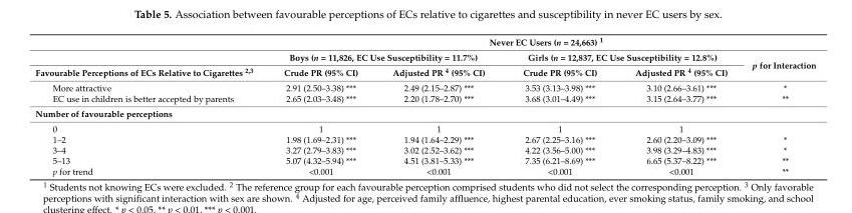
<table><thead><tr><td rowspan="3">Favourable Perceptions of ECs Relative to Cigarettes <sup>2,3</sup></td><td colspan="5">Never EC Users (n = 24,663) <sup>1</sup></td></tr><tr><td colspan="2">Boys (n = 11,826, EC Use Susceptibility = 11.7%)</td><td colspan="2">Girls (n = 12,837, EC Use Susceptibility = 12.8%)</td><td rowspan="2">p for Interaction</td></tr><tr><td>Crude PR (95% CI)</td><td>Adjusted PR <sup>4</sup> (95% CI)</td><td>Crude PR (95% CI)</td><td>Adjusted PR <sup>4</sup> (95% CI)</td></tr></thead><tbody><tr><td>More attractive</td><td>2.91 (2.50–3.38) ***</td><td>2.49 (2.15–2.87) ***</td><td>3.53 (3.13–3.98) ***</td><td>3.10 (2.66–3.61) ***</td><td>*</td></tr><tr><td>EC use in children is better accepted by parents</td><td>2.65 (2.03–3.48) ***</td><td>2.20 (1.78–2.70) ***</td><td>3.68 (3.01–4.49) ***</td><td>3.15 (2.64–3.77) ***</td><td>**</td></tr><tr><td colspan="6">Number of favourable perceptions</td></tr><tr><td>0</td><td>1</td><td>1</td><td>1</td><td>1</td><td></td></tr><tr><td>1–2</td><td>1.98 (1.69–2.31) ***</td><td>1.94 (1.64–2.29) ***</td><td>2.67 (2.25–3.16) ***</td><td>2.60 (2.20–3.09) ***</td><td>*</td></tr><tr><td>3–4</td><td>3.27 (2.79–3.83) ***</td><td>3.02 (2.52–3.62) ***</td><td>4.22 (3.56–5.00) ***</td><td>3.98 (3.29–4.83) ***</td><td>*</td></tr><tr><td>5–13</td><td>5.07 (4.32–5.94) ***</td><td>4.51 (3.81–5.33) ***</td><td>7.35 (6.21–8.69) ***</td><td>6.65 (5.37–8.22) ***</td><td>**</td></tr><tr><td>p for trend</td><td>&lt;0.001</td><td>&lt;0.001</td><td>&lt;0.001</td><td>&lt;0.001</td><td>**</td></tr></tbody></table>